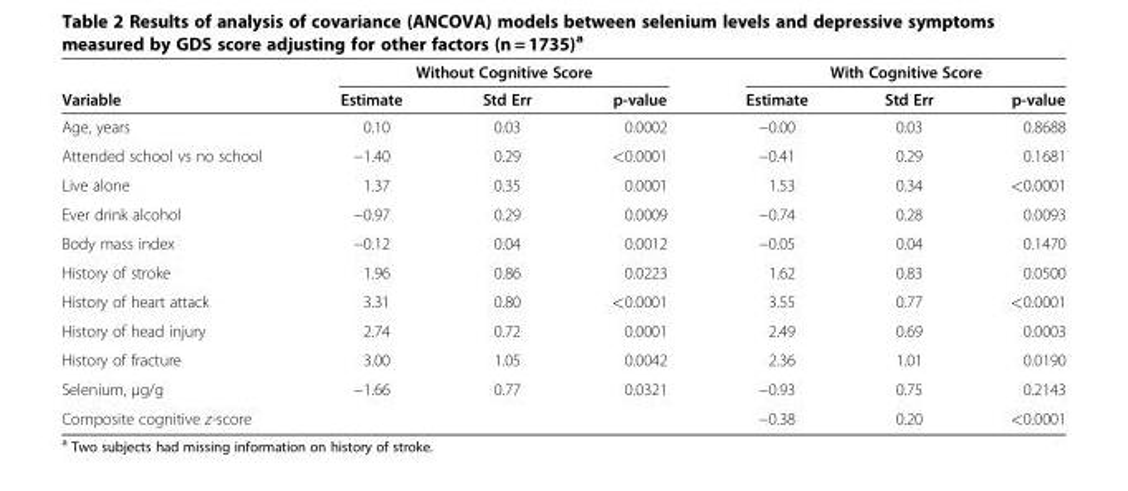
<table><thead><tr><td rowspan="2">Variable</td><td colspan="3">Without Cognitive Score</td><td colspan="3">With Cognitive Score</td></tr><tr><td>Estimate</td><td>Std Err</td><td>p-value</td><td>Estimate</td><td>Std Err</td><td>p-value</td></tr></thead><tbody><tr><td>Age, years</td><td>0.10</td><td>0.03</td><td>0.0002</td><td>−0.00</td><td>0.03</td><td>0.8688</td></tr><tr><td>Attended school vs no school</td><td>−1.40</td><td>0.29</td><td>&lt;0.0001</td><td>−0.41</td><td>0.29</td><td>0.1681</td></tr><tr><td>Live alone</td><td>1.37</td><td>0.35</td><td>0.0001</td><td>1.53</td><td>0.34</td><td>&lt;0.0001</td></tr><tr><td>Ever drink alcohol</td><td>−0.97</td><td>0.29</td><td>0.0009</td><td>−0.74</td><td>0.28</td><td>0.0093</td></tr><tr><td>Body mass index</td><td>−0.12</td><td>0.04</td><td>0.0012</td><td>−0.05</td><td>0.04</td><td>0.1470</td></tr><tr><td>History of stroke</td><td>1.96</td><td>0.86</td><td>0.0223</td><td>1.62</td><td>0.83</td><td>0.0500</td></tr><tr><td>History of heart attack</td><td>3.31</td><td>0.80</td><td>&lt;0.0001</td><td>3.55</td><td>0.77</td><td>&lt;0.0001</td></tr><tr><td>History of head injury</td><td>2.74</td><td>0.72</td><td>0.0001</td><td>2.49</td><td>0.69</td><td>0.0003</td></tr><tr><td>History of fracture</td><td>3.00</td><td>1.05</td><td>0.0042</td><td>2.36</td><td>1.01</td><td>0.0190</td></tr><tr><td>Selenium, μg/g</td><td>−1.66</td><td>0.77</td><td>0.0321</td><td>−0.93</td><td>0.75</td><td>0.2143</td></tr><tr><td>Composite cognitive z-score</td><td></td><td></td><td></td><td>−0.38</td><td>0.20</td><td>&lt;0.0001</td></tr></tbody></table>